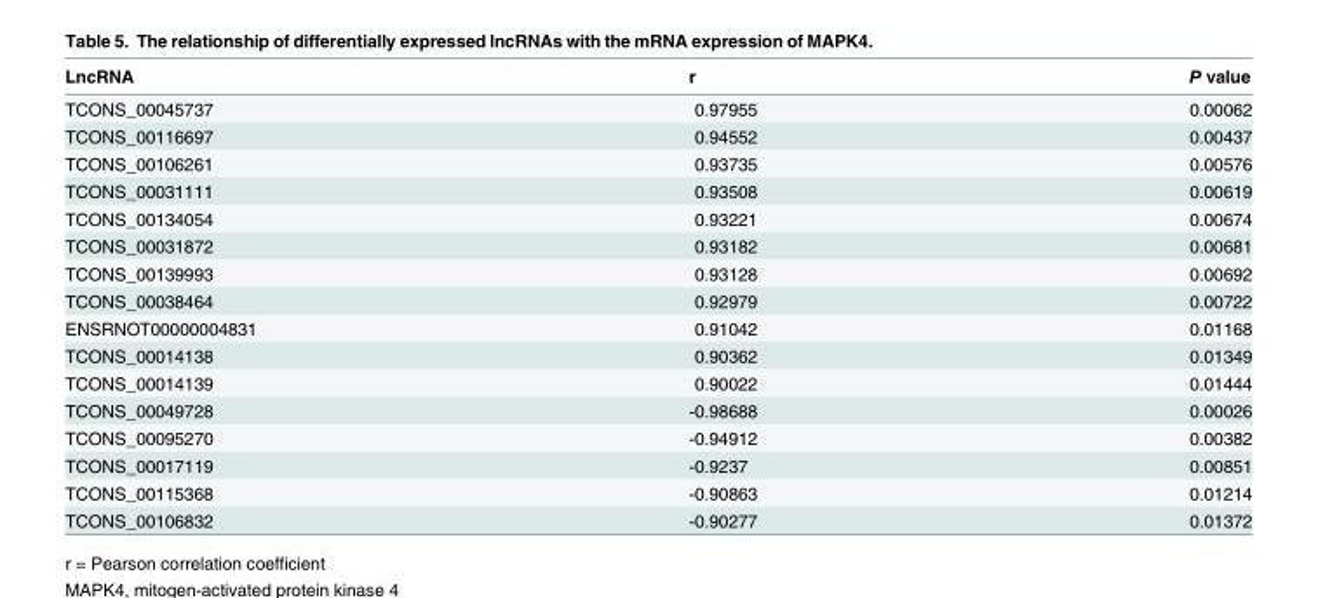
<table><thead><tr><td>LncRNA</td><td>r</td><td>P value</td></tr></thead><tbody><tr><td>TCONS_00045737</td><td>0.97955</td><td>0.00062</td></tr><tr><td>TCONS_00116697</td><td>0.94552</td><td>0.00437</td></tr><tr><td>TCONS_00106261</td><td>0.93735</td><td>0.00576</td></tr><tr><td>TCONS_00031111</td><td>0.93508</td><td>0.00619</td></tr><tr><td>TCONS_00134054</td><td>0.93221</td><td>0.00674</td></tr><tr><td>TCONS_00031872</td><td>0.93182</td><td>0.00681</td></tr><tr><td>TCONS_00139993</td><td>0.93128</td><td>0.00692</td></tr><tr><td>TCONS_00038464</td><td>0.92979</td><td>0.00722</td></tr><tr><td>ENSRNOT00000004831</td><td>0.91042</td><td>0.01168</td></tr><tr><td>TCONS_00014138</td><td>0.90362</td><td>0.01349</td></tr><tr><td>TCONS_00014139</td><td>0.90022</td><td>0.01444</td></tr><tr><td>TCONS_00049728</td><td>-0.98688</td><td>0.00026</td></tr><tr><td>TCONS_00095270</td><td>-0.94912</td><td>0.00382</td></tr><tr><td>TCONS_00017119</td><td>-0.9237</td><td>0.00851</td></tr><tr><td>TCONS_00115368</td><td>-0.90863</td><td>0.01214</td></tr><tr><td>TCONS_00106832</td><td>-0.90277</td><td>0.01372</td></tr></tbody></table>